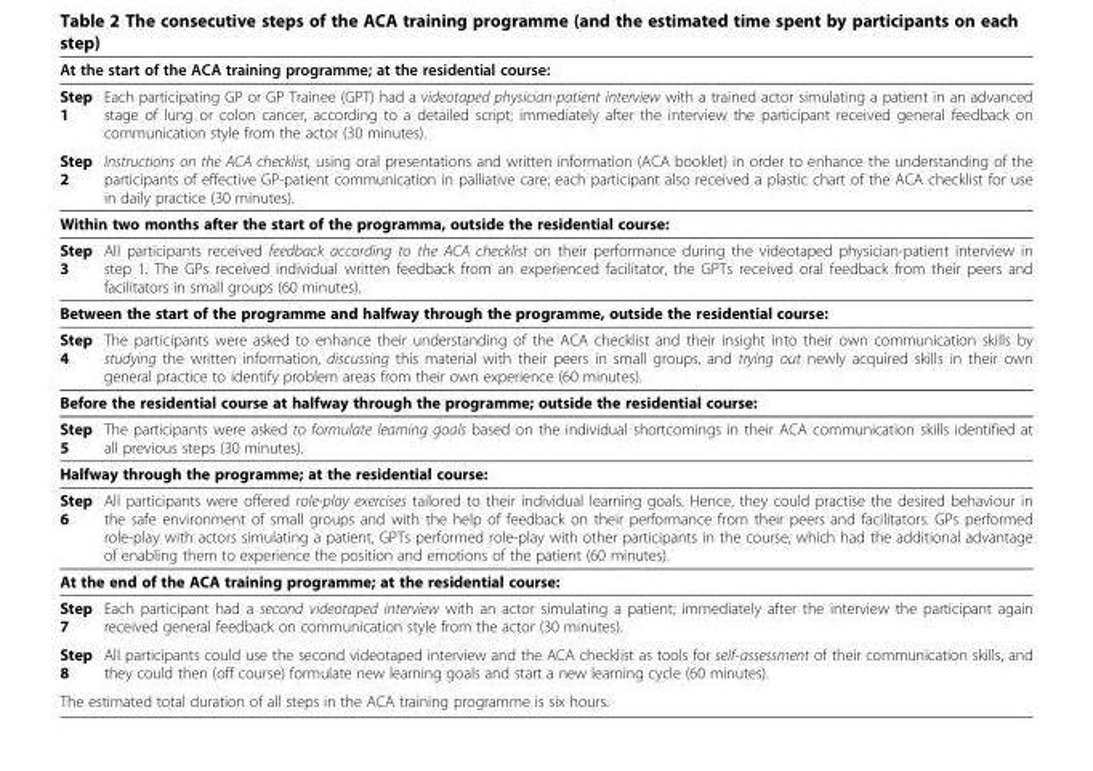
<table><thead><tr><td colspan="2">At the start of the ACA training programme; at the residential course:</td></tr><tr><td>Step 1</td><td>Each participating GP or GP Trainee (GPT) had a videotaped physician-patient interview with a trained actor simulating a patient in an advanced stage of lung or colon cancer, according to a detailed script; immediately after the interview the participant received general feedback on communication style from the actor (30 minutes).</td></tr></thead><tbody><tr><td>Step 2</td><td>Instructions on the ACA checklist, using oral presentations and written information (ACA booklet) in order to enhance the understanding of the participants of effective GP-patient communication in palliative care; each participant also received a plastic chart of the ACA checklist for use in daily practice (30 minutes).</td></tr><tr><td colspan="2">Within two months after the start of the programma, outside the residential course:</td></tr><tr><td>Step 3</td><td>All participants received feedback according to the ACA checklist on their performance during the videotaped physician-patient interview in step 1. The GPs received individual written feedback from an experienced facilitator, the GPTs received oral feedback from their peers and facilitators in small groups (60 minutes).</td></tr><tr><td colspan="2">Between the start of the programme and halfway through the programme, outside the residential course:</td></tr><tr><td>Step 4</td><td>The participants were asked to enhance their understanding of the ACA checklist and their insight into their own communication skills by studying the written information, discussing this material with their peers in small groups, and trying out newly acquired skills in their own general practice to identify problem areas from their own experience (60 minutes).</td></tr><tr><td colspan="2">Before the residential course at halfway through the programme; outside the residential course:</td></tr><tr><td>Step 5</td><td>The participants were asked to formulate learning goals based on the individual shortcomings in their ACA communication skills identified at all previous steps (30 minutes).</td></tr><tr><td colspan="2">Halfway through the programme; at the residential course:</td></tr><tr><td>Step 6</td><td>All participants were offered role-play exercises tailored to their individual learning goals. Hence, they could practise the desired behaviour in the safe environment of small groups and with the help of feedback on their performance from their peers and facilitators. GPs performed role-play with actors simulating a patient, GPTs performed role-play with other participants in the course, which had the additional advantage of enabling them to experience the position and emotions of the patient (60 minutes).</td></tr><tr><td colspan="2">At the end of the ACA training programme; at the residential course:</td></tr><tr><td>Step 7</td><td>Each participant had a second videotaped interview with an actor simulating a patient; immediately after the interview the participant again received general feedback on communication style from the actor (30 minutes).</td></tr><tr><td>Step 8</td><td>All participants could use the second videotaped interview and the ACA checklist as tools for self-assessment of their communication skills, and they could then (off course) formulate new learning goals and start a new learning cycle (60 minutes).</td></tr><tr><td colspan="2">The estimated total duration of all steps in the ACA training programme is six hours.</td></tr></tbody></table>